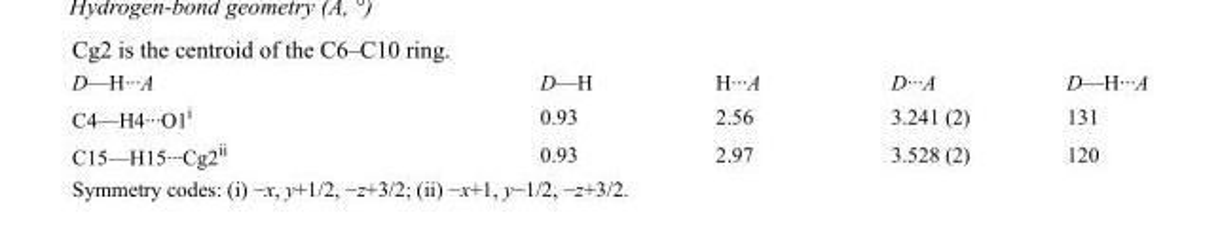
<table><tbody><tr><td>D—H···A</td><td>D—H</td><td>H···A</td><td>D···A</td><td>D—H···A</td></tr><tr><td>C4—H4···O1<sup>i</sup></td><td>0.93</td><td>2.56</td><td>3.241 (2)</td><td>131</td></tr><tr><td>C15—H15···Cg2<sup>ii</sup></td><td>0.93</td><td>2.97</td><td>3.528 (2)</td><td>120</td></tr></tbody></table>